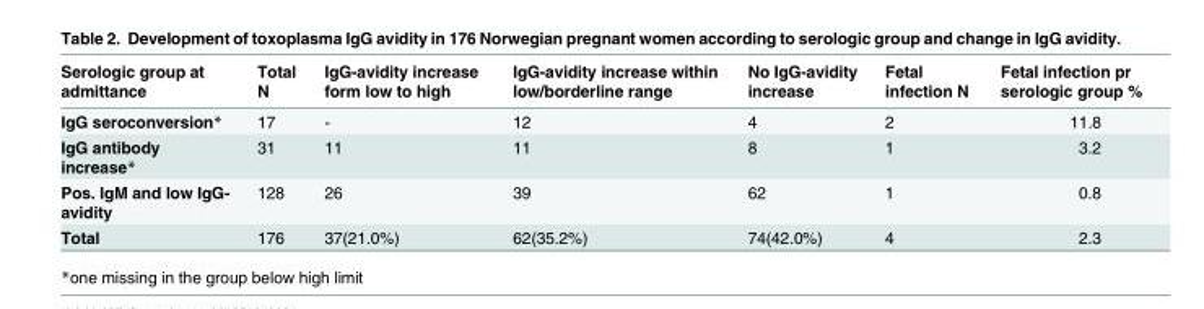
<table><thead><tr><td>Serologic group at admittance</td><td>Total N</td><td>IgG-avidity increase form low to high</td><td>IgG-avidity increase within low/borderline range</td><td>No IgG-avidity increase</td><td>Fetal infection N</td><td>Fetal infection pr serologic group %</td></tr></thead><tbody><tr><td>IgG seroconversion*</td><td>17</td><td>-</td><td>12</td><td>4</td><td>2</td><td>11.8</td></tr><tr><td>IgG antibody increase*</td><td>31</td><td>11</td><td>11</td><td>8</td><td>1</td><td>3.2</td></tr><tr><td>Pos. IgM and low IgG- avidity</td><td>128</td><td>26</td><td>39</td><td>62</td><td>1</td><td>0.8</td></tr><tr><td>Total</td><td>176</td><td>37(21.0%)</td><td>62(35.2%)</td><td>74(42.0%)</td><td>4</td><td>2.3</td></tr></tbody></table>